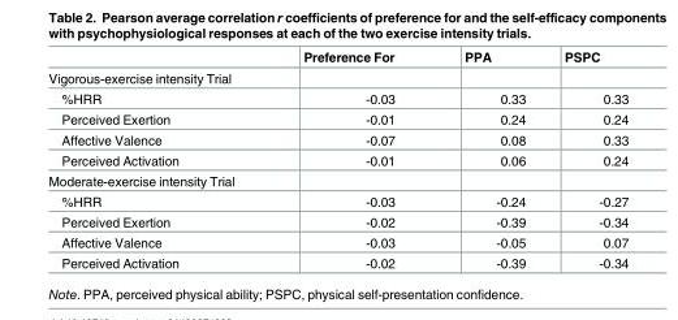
<table><thead><tr><td></td><td>Preference For</td><td>PPA</td><td>PSPC</td></tr></thead><tbody><tr><td colspan="4">Vigorous-exercise intensity Trial</td></tr><tr><td>%HRR</td><td>-0.03</td><td>0.33</td><td>0.33</td></tr><tr><td>Perceived Exertion</td><td>-0.01</td><td>0.24</td><td>0.24</td></tr><tr><td>Affective Valence</td><td>-0.07</td><td>0.08</td><td>0.33</td></tr><tr><td>Perceived Activation</td><td>-0.01</td><td>0.06</td><td>0.24</td></tr><tr><td colspan="4">Moderate-exercise intensity Trial</td></tr><tr><td>%HRR</td><td>-0.03</td><td>-0.24</td><td>-0.27</td></tr><tr><td>Perceived Exertion</td><td>-0.02</td><td>-0.39</td><td>-0.34</td></tr><tr><td>Affective Valence</td><td>-0.03</td><td>-0.05</td><td>0.07</td></tr><tr><td>Perceived Activation</td><td>-0.02</td><td>-0.39</td><td>-0.34</td></tr></tbody></table>